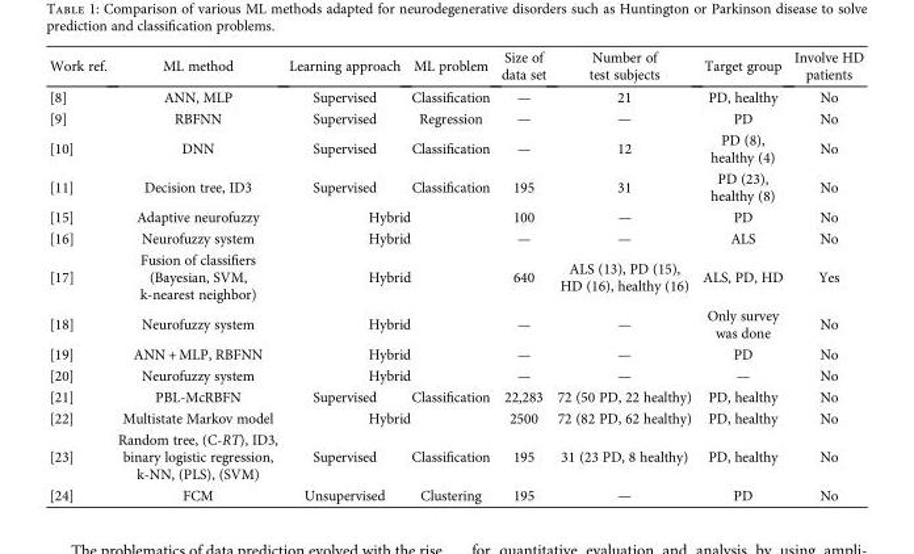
<table><thead><tr><td>Work ref.</td><td>ML method</td><td>Learning approach</td><td>ML problem</td><td>Size of data set</td><td>Number of test subjects</td><td>Target group</td><td>Involve HD patients</td></tr></thead><tbody><tr><td>[8]</td><td>ANN, MLP</td><td>Supervised</td><td>Classification</td><td>—</td><td>21</td><td>PD, healthy</td><td>No</td></tr><tr><td>[9]</td><td>RBFNN</td><td>Supervised</td><td>Regression</td><td>—</td><td>—</td><td>PD</td><td>No</td></tr><tr><td>[10]</td><td>DNN</td><td>Supervised</td><td>Classification</td><td>—</td><td>12</td><td>PD (8), healthy (4)</td><td>No</td></tr><tr><td>[11]</td><td>Decision tree, ID3</td><td>Supervised</td><td>Classification</td><td>195</td><td>31</td><td>PD (23), healthy (8)</td><td>No</td></tr><tr><td>[15]</td><td>Adaptive neurofuzzy</td><td colspan="2">Hybrid</td><td>100</td><td>—</td><td>PD</td><td>No</td></tr><tr><td>[16]</td><td>Neurofuzzy system</td><td colspan="2">Hybrid</td><td>—</td><td>—</td><td>ALS</td><td>No</td></tr><tr><td>[17]</td><td>Fusion of classifiers (Bayesian, SVM, k-nearest neighbor)</td><td colspan="2">Hybrid</td><td>640</td><td>ALS (13), PD (15), HD (16), healthy (16)</td><td>ALS, PD, HD</td><td>Yes</td></tr><tr><td>[18]</td><td>Neurofuzzy system</td><td colspan="2">Hybrid</td><td>—</td><td>—</td><td>Only survey was done</td><td>No</td></tr><tr><td>[19]</td><td>ANN + MLP, RBFNN</td><td colspan="2">Hybrid</td><td>—</td><td>—</td><td>PD</td><td>No</td></tr><tr><td>[20]</td><td>Neurofuzzy system</td><td colspan="2">Hybrid</td><td>—</td><td>—</td><td>—</td><td>No</td></tr><tr><td>[21]</td><td>PBL-McRBFN</td><td>Supervised</td><td>Classification</td><td>22,283</td><td>72 (50 PD, 22 healthy)</td><td>PD, healthy</td><td>No</td></tr><tr><td>[22]</td><td>Multistate Markov model</td><td colspan="2">Hybrid</td><td>2500</td><td>72 (82 PD, 62 healthy)</td><td>PD, healthy</td><td>No</td></tr><tr><td>[23]</td><td>Random tree, (C-RT), ID3, binary logistic regression, k-NN, (PLS), (SVM)</td><td>Supervised</td><td>Classification</td><td>195</td><td>31 (23 PD, 8 healthy)</td><td>PD, healthy</td><td>No</td></tr><tr><td>[24]</td><td>FCM</td><td>Unsupervised</td><td>Clustering</td><td>195</td><td>—</td><td>PD</td><td>No</td></tr></tbody></table>